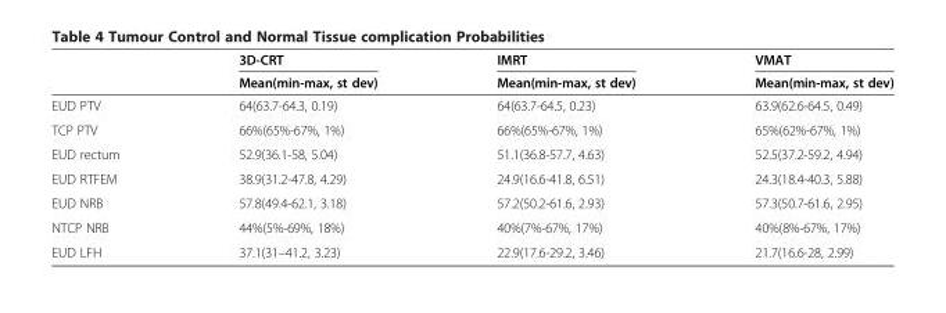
<table><thead><tr><td rowspan="2"></td><td rowspan="2">3D-CRT Mean(min-max, st dev)</td><td rowspan="2">IMRT Mean(min-max, st dev)</td><td rowspan="2">VMAT Mean(min-max, st dev)</td></tr><tr></tr></thead><tbody><tr><td>EUD PTV</td><td>64(63.7-64.3, 0.19)</td><td>64(63.7-64.5, 0.23)</td><td>63.9(62.6-64.5, 0.49)</td></tr><tr><td>TCP PTV</td><td>66%(65%-67%, 1%)</td><td>66%(65%-67%, 1%)</td><td>65%(62%-67%, 1%)</td></tr><tr><td>EUD rectum</td><td>52.9(36.1-58, 5.04)</td><td>51.1(36.8-57.7, 4.63)</td><td>52.5(37.2-59.2, 4.94)</td></tr><tr><td>EUD RTFEM</td><td>38.9(31.2-47.8, 4.29)</td><td>24.9(16.6-41.8, 6.51)</td><td>24.3(18.4-40.3, 5.88)</td></tr><tr><td>EUD NRB</td><td>57.8(49.4-62.1, 3.18)</td><td>57.2(50.2-61.6, 2.93)</td><td>57.3(50.7-61.6, 2.95)</td></tr><tr><td>NTCP NRB</td><td>44%(5%-69%, 18%)</td><td>40%(7%-67%, 17%)</td><td>40%(8%-67%, 17%)</td></tr><tr><td>EUD LFH</td><td>37.1(31–41.2, 3.23)</td><td>22.9(17.6-29.2, 3.46)</td><td>21.7(16.6-28, 2.99)</td></tr></tbody></table>